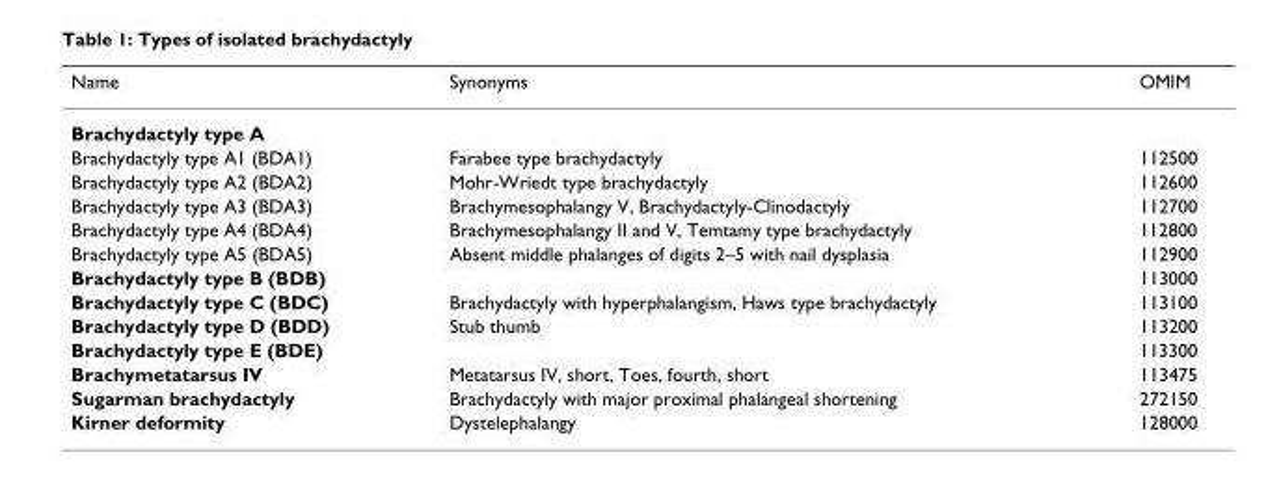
<table><thead><tr><td>Name</td><td>Synonyms</td><td>OMIM</td></tr></thead><tbody><tr><td colspan="3">Brachydactyly type A</td></tr><tr><td>Brachydactyly type A1 (BDA1)</td><td>Farabee type brachydactyly</td><td>112500</td></tr><tr><td>Brachydactyly type A2 (BDA2)</td><td>Mohr-Wriedt type brachydactyly</td><td>112600</td></tr><tr><td>Brachydactyly type A3 (BDA3)</td><td>Brachymesophalangy V, Brachydactyly-Clinodactyly</td><td>112700</td></tr><tr><td>Brachydactyly type A4 (BDA4)</td><td>Brachymesophalangy II and V, Temtamy type brachydactyly</td><td>112800</td></tr><tr><td>Brachydactyly type A5 (BDA5)</td><td>Absent middle phalanges of digits 2–5 with nail dysplasia</td><td>112900</td></tr><tr><td>Brachydactyly type B (BDB)</td><td></td><td>113000</td></tr><tr><td>Brachydactyly type C (BDC)</td><td>Brachydactyly with hyperphalangism, Haws type brachydactyly</td><td>113100</td></tr><tr><td>Brachydactyly type D (BDD)</td><td>Stub thumb</td><td>113200</td></tr><tr><td>Brachydactyly type E (BDE)</td><td></td><td>113300</td></tr><tr><td>Brachymetatarsus IV</td><td>Metatarsus IV, short, Toes, fourth, short</td><td>113475</td></tr><tr><td>Sugarman brachydactyly</td><td>Brachydactyly with major proximal phalangeal shortening</td><td>272150</td></tr><tr><td>Kirner deformity</td><td>Dystelephalangy</td><td>128000</td></tr></tbody></table>